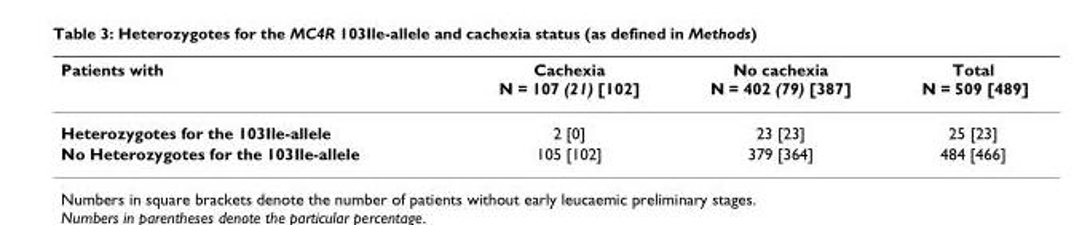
<table><thead><tr><td>Patients with</td><td>Cachexia N = 107 (21) [102]</td><td>No cachexia N = 402 (79) [387]</td><td>Total N = 509 [489]</td></tr></thead><tbody><tr><td>Heterozygotes for the 103Ile-allele</td><td>2 [0]</td><td>23 [23]</td><td>25 [23]</td></tr><tr><td>No Heterozygotes for the 103Ile-allele</td><td>105 [102]</td><td>379 [364]</td><td>484 [466]</td></tr></tbody></table>